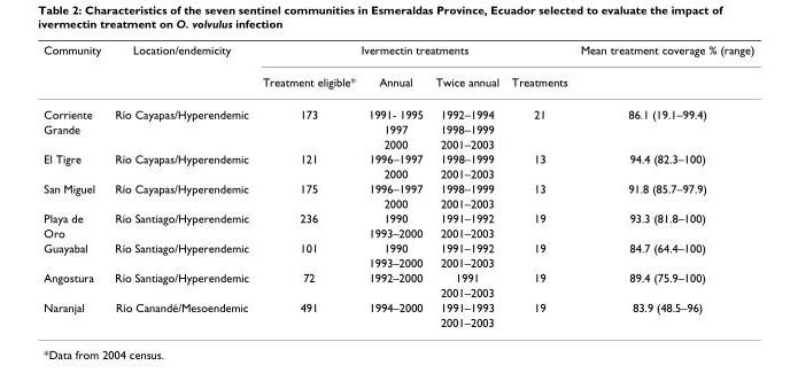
<table><thead><tr><td rowspan="2">Community</td><td rowspan="2">Location/endemicity</td><td colspan="4">Ivermectin treatments</td><td rowspan="2">Mean treatment coverage % (range)</td></tr><tr><td>Treatment eligible*</td><td>Annual</td><td>Twice annual</td><td>Treatments</td></tr></thead><tbody><tr><td>Corriente</td><td>Río Cayapas/Hyperendemic</td><td>173</td><td>1991- 1995</td><td>1992–1994</td><td>21</td><td>86.1 (19.1–99.4)</td></tr><tr><td rowspan="2">Grande</td><td></td><td></td><td>1997</td><td>1998–1999</td><td></td><td></td></tr><tr><td></td><td></td><td>2000</td><td>2001–2003</td><td></td><td></td></tr><tr><td rowspan="2">El Tigre</td><td>Río Cayapas/Hyperendemic</td><td>121</td><td>1996–1997</td><td>1998–1999</td><td>13</td><td>94.4 (82.3–100)</td></tr><tr><td></td><td></td><td>2000</td><td>2001–2003</td><td></td><td></td></tr><tr><td rowspan="2">San Miguel</td><td>Río Cayapas/Hyperendemic</td><td>175</td><td>1996–1997</td><td>1998–1999</td><td>13</td><td>91.8 (85.7–97.9)</td></tr><tr><td></td><td></td><td>2000</td><td>2001–2003</td><td></td><td></td></tr><tr><td>Playa de</td><td>Río Santiago/Hyperendemic</td><td>236</td><td>1990</td><td>1991–1992</td><td>19</td><td>93.3 (81.8–100)</td></tr><tr><td>Oro</td><td></td><td></td><td>1993–2000</td><td>2001–2003</td><td></td><td></td></tr><tr><td rowspan="2">Guayabal</td><td>Río Santiago/Hyperendemic</td><td>101</td><td>1990</td><td>1991–1992</td><td>19</td><td>84.7 (64.4–100)</td></tr><tr><td></td><td></td><td>1993–2000</td><td>2001–2003</td><td></td><td></td></tr><tr><td rowspan="2">Angostura</td><td>Río Santiago/Hyperendemic</td><td>72</td><td>1992–2000</td><td>1991</td><td>19</td><td>89.4 (75.9–100)</td></tr><tr><td></td><td></td><td></td><td>2001–2003</td><td></td><td></td></tr><tr><td rowspan="2">Naranjal</td><td>Río Canandé/Mesoendemic</td><td>491</td><td>1994–2000</td><td>1991–1993</td><td>19</td><td>83.9 (48.5–96)</td></tr><tr><td></td><td></td><td></td><td>2001–2003</td><td></td><td></td></tr></tbody></table>